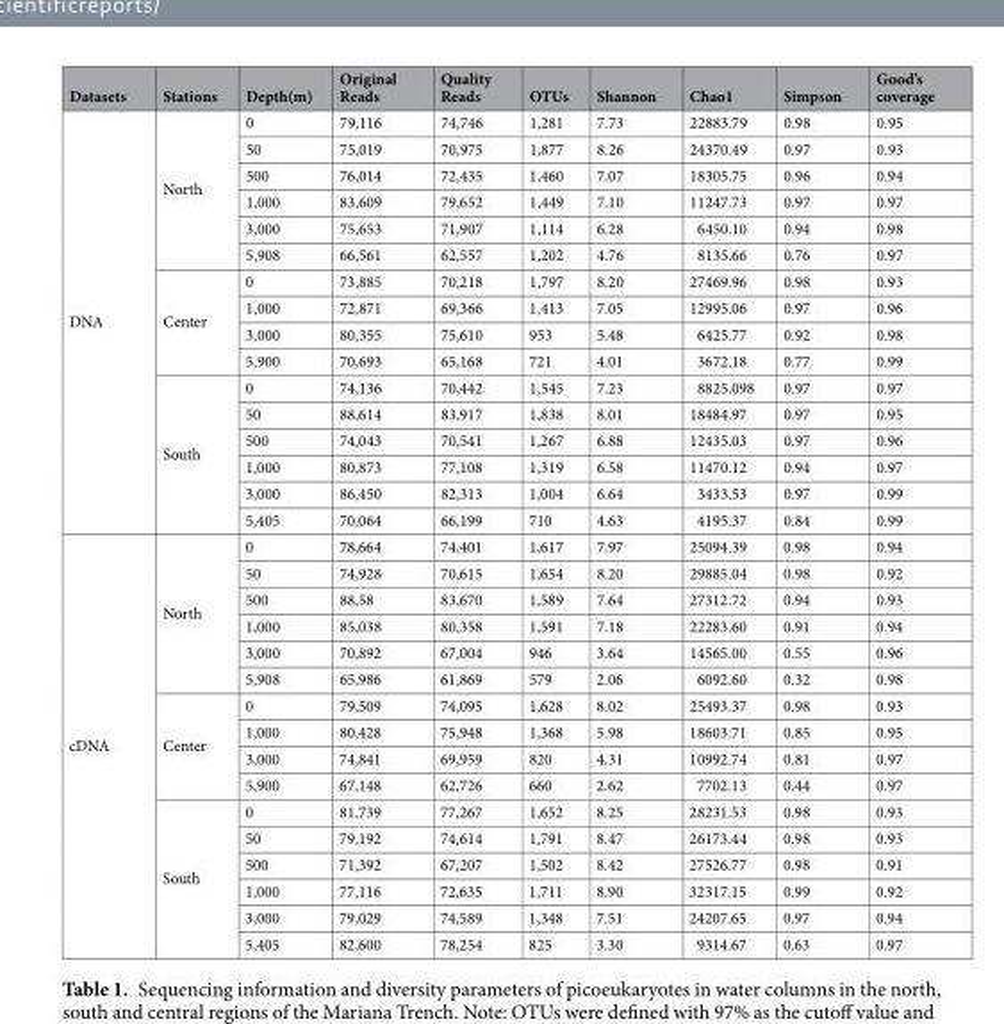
<table><thead><tr><td>Datasets</td><td>Stations</td><td>Depth(m)</td><td>Original Reads</td><td>Quality Reads</td><td>OTUs</td><td>Shannon</td><td>Chao1</td><td>Simpson</td><td>Good’s coverage</td></tr></thead><tbody><tr><td rowspan="16">DNA</td><td rowspan="6">North</td><td>0</td><td>79,116</td><td>74,746</td><td>1,281</td><td>7.73</td><td>22883.79</td><td>0.98</td><td>0.95</td></tr><tr><td>50</td><td>75,019</td><td>70,975</td><td>1,877</td><td>8.26</td><td>24370.49</td><td>0.97</td><td>0.93</td></tr><tr><td>500</td><td>76,014</td><td>72,435</td><td>1,460</td><td>7.07</td><td>18305.75</td><td>0.96</td><td>0.94</td></tr><tr><td>1,000</td><td>83,609</td><td>79,652</td><td>1,449</td><td>7.10</td><td>11247.73</td><td>0.97</td><td>0.97</td></tr><tr><td>3,000</td><td>75,653</td><td>71,907</td><td>1,114</td><td>6.28</td><td>6450.10</td><td>0.94</td><td>0.98</td></tr><tr><td>5,908</td><td>66,561</td><td>62,557</td><td>1,202</td><td>4.76</td><td>8135.66</td><td>0.76</td><td>0.97</td></tr><tr><td rowspan="4">Center</td><td>0</td><td>73,885</td><td>70,218</td><td>1,797</td><td>8.20</td><td>27469.96</td><td>0.98</td><td>0.93</td></tr><tr><td>1,000</td><td>72,871</td><td>69,366</td><td>1,413</td><td>7.05</td><td>12995.06</td><td>0.97</td><td>0.96</td></tr><tr><td>3,000</td><td>80,355</td><td>75,610</td><td>953</td><td>5.48</td><td>6425.77</td><td>0.92</td><td>0.98</td></tr><tr><td>5,900</td><td>70,693</td><td>65,168</td><td>721</td><td>4.01</td><td>3672.18</td><td>0.77</td><td>0.99</td></tr><tr><td rowspan="6">South</td><td>0</td><td>74,136</td><td>70,442</td><td>1,545</td><td>7.23</td><td>8825.098</td><td>0.97</td><td>0.97</td></tr><tr><td>50</td><td>88,614</td><td>83,917</td><td>1,838</td><td>8.01</td><td>18484.97</td><td>0.97</td><td>0.95</td></tr><tr><td>500</td><td>74,043</td><td>70,541</td><td>1,267</td><td>6.88</td><td>12435.03</td><td>0.97</td><td>0.96</td></tr><tr><td>1,000</td><td>80,873</td><td>77,108</td><td>1,319</td><td>6.58</td><td>11470.12</td><td>0.94</td><td>0.97</td></tr><tr><td>3,000</td><td>86,450</td><td>82,313</td><td>1,004</td><td>6.64</td><td>3433.53</td><td>0.97</td><td>0.99</td></tr><tr><td>5,405</td><td>70,064</td><td>66,199</td><td>710</td><td>4.63</td><td>4195.37</td><td>0.84</td><td>0.99</td></tr><tr><td rowspan="16">cDNA</td><td rowspan="6">North</td><td>0</td><td>78,664</td><td>74,401</td><td>1,617</td><td>7.97</td><td>25094.39</td><td>0.98</td><td>0.94</td></tr><tr><td>50</td><td>74,928</td><td>70,615</td><td>1,654</td><td>8.20</td><td>29885.04</td><td>0.98</td><td>0.92</td></tr><tr><td>500</td><td>88,58</td><td>83,670</td><td>1,589</td><td>7.64</td><td>27312.72</td><td>0.94</td><td>0.93</td></tr><tr><td>1,000</td><td>85,038</td><td>80,358</td><td>1,591</td><td>7.18</td><td>22283.60</td><td>0.91</td><td>0.94</td></tr><tr><td>3,000</td><td>70,892</td><td>67,004</td><td>946</td><td>3.64</td><td>14565.00</td><td>0.55</td><td>0.96</td></tr><tr><td>5,908</td><td>65,986</td><td>61,869</td><td>579</td><td>2.06</td><td>6092.60</td><td>0.32</td><td>0.98</td></tr><tr><td rowspan="4">Center</td><td>0</td><td>79,509</td><td>74,095</td><td>1,628</td><td>8.02</td><td>25493.37</td><td>0.98</td><td>0.93</td></tr><tr><td>1,000</td><td>80,428</td><td>75,948</td><td>1,368</td><td>5.98</td><td>18603.71</td><td>0.85</td><td>0.95</td></tr><tr><td>3,000</td><td>74,841</td><td>69,959</td><td>820</td><td>4.31</td><td>10992.74</td><td>0.81</td><td>0.97</td></tr><tr><td>5,900</td><td>67,148</td><td>62,726</td><td>660</td><td>2.62</td><td>7702.13</td><td>0.44</td><td>0.97</td></tr><tr><td rowspan="6">South</td><td>0</td><td>81,739</td><td>77,267</td><td>1,652</td><td>8.25</td><td>28231.53</td><td>0.98</td><td>0.93</td></tr><tr><td>50</td><td>79,192</td><td>74,614</td><td>1,791</td><td>8.47</td><td>26173.44</td><td>0.98</td><td>0.93</td></tr><tr><td>500</td><td>71,392</td><td>67,207</td><td>1,502</td><td>8.42</td><td>27526.77</td><td>0.98</td><td>0.91</td></tr><tr><td>1,000</td><td>77,116</td><td>72,635</td><td>1,711</td><td>8.90</td><td>32317.15</td><td>0.99</td><td>0.92</td></tr><tr><td>3,000</td><td>79,029</td><td>74,589</td><td>1,348</td><td>7.51</td><td>24207.65</td><td>0.97</td><td>0.94</td></tr><tr><td>5,405</td><td>82,600</td><td>78,254</td><td>825</td><td>3.30</td><td>9314.67</td><td>0.63</td><td>0.97</td></tr></tbody></table>